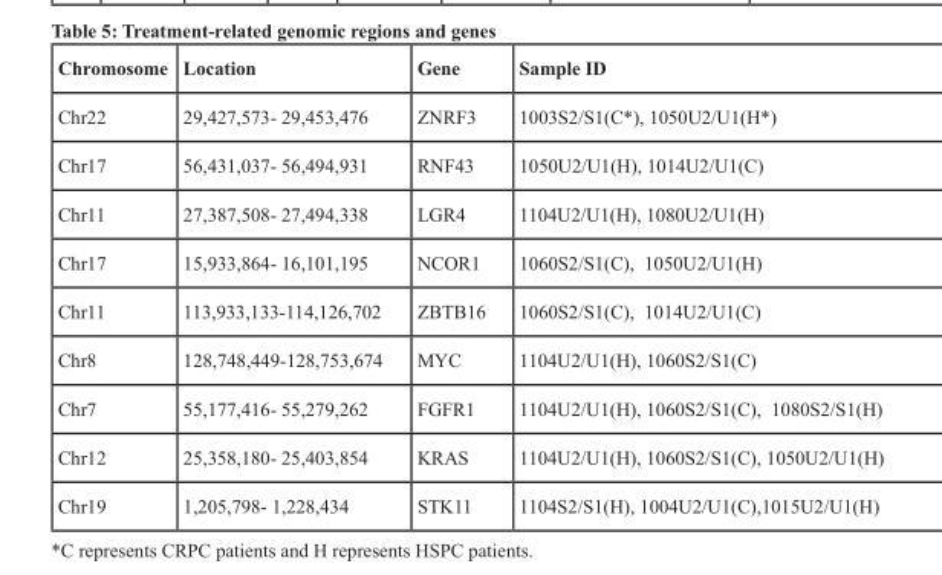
<table><thead><tr><td>chromosome</td><td>Location</td><td>Gene</td><td>sample ID</td></tr></thead><tbody><tr><td>Chr22</td><td>29,427,573- 29,453,476</td><td>ZNRF3</td><td>1003S2/S1(C*), 1050U2/U1(H*)</td></tr><tr><td>Chr17</td><td>56,431,037- 56,494,931</td><td>RNF43</td><td>1050U2/U1(H), 1014U2/U1(C)</td></tr><tr><td>Chr11</td><td>27,387,508- 27,494,338</td><td>LGR4</td><td>1104U2/U1(H), 1080U2/U1(H)</td></tr><tr><td>Chr17</td><td>15,933,864- 16,101,195</td><td>NCOR1</td><td>1060S2/S1(C), 1050U2/U1(H)</td></tr><tr><td>Chr11</td><td>113,933,133-114,126,702</td><td>ZBTB16</td><td>1060S2/S1(C), 1014U2/U1(C)</td></tr><tr><td>Chr8</td><td>128,748,449-128,753,674</td><td>MYC</td><td>1104U2/U1(H), 1060S2/S1(C)</td></tr><tr><td>Chr7</td><td>55,177,416- 55,279,262</td><td>FGFR1</td><td>1104U2/U1(H), 1060S2/S1(C), 1080S2/S1(H)</td></tr><tr><td>Chr12</td><td>25,358,180- 25,403,854</td><td>KRAS</td><td>1104U2/U1(H), 1060S2/S1(C), 1050U2/U1(H)</td></tr><tr><td>Chr19</td><td>1,205,798- 1,228,434</td><td>STK11</td><td>1104S2/S1(H), 1004U2/U1(C),1015U2/U1(H)</td></tr></tbody></table>